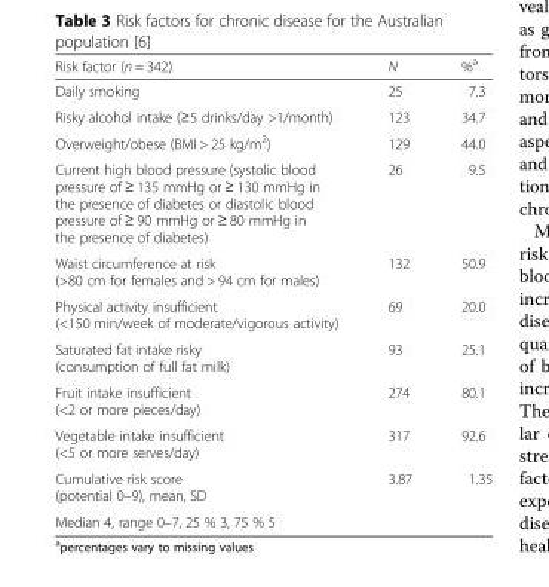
<table><thead><tr><td>Risk factor (n = 342)</td><td>N</td><td>%<sup>a</sup></td></tr></thead><tbody><tr><td>Daily smoking</td><td>25</td><td>7.3</td></tr><tr><td>Risky alcohol intake (≥5 drinks/day &gt;1/month)</td><td>123</td><td>34.7</td></tr><tr><td>Overweight/obese (BMI &gt; 25 kg/m<sup>2</sup>)</td><td>129</td><td>44.0</td></tr><tr><td>Current high blood pressure (systolic blood pressure of ≥ 135 mmHg or ≥ 130 mmHg in the presence of diabetes or diastolic blood pressure of ≥ 90 mmHg or ≥ 80 mmHg in the presence of diabetes)</td><td>26</td><td>9.5</td></tr><tr><td>Waist circumference at risk (&gt;80 cm for females and &gt; 94 cm for males)</td><td>132</td><td>50.9</td></tr><tr><td>Physical activity insufficient (&lt;150 min/week of moderate/vigorous activity)</td><td>69</td><td>20.0</td></tr><tr><td>Saturated fat intake risky (consumption of full fat milk)</td><td>93</td><td>25.1</td></tr><tr><td>Fruit intake insufficient (&lt;2 or more pieces/day)</td><td>274</td><td>80.1</td></tr><tr><td>Vegetable intake insufficient (&lt;5 or more serves/day)</td><td>317</td><td>92.6</td></tr><tr><td>Cumulative risk score (potential 0–9), mean, SD</td><td rowspan="2">3.87</td><td rowspan="2">1.35</td></tr><tr><td>Median 4, range 0–7, 25 % 3, 75 % 5</td></tr></tbody></table>